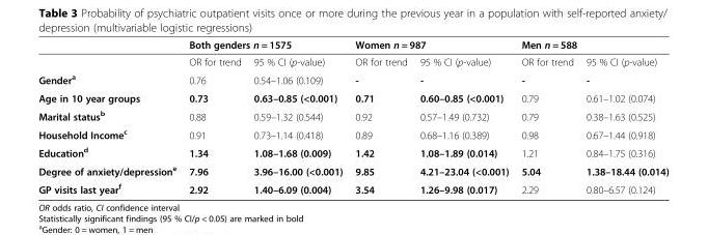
<table><thead><tr><td rowspan="2"></td><td colspan="2">Both genders n = 1575</td><td colspan="2">Women n = 987</td><td colspan="2">Men n = 588</td></tr><tr><td>OR for trend</td><td>95 % CI (p-value)</td><td>OR for trend</td><td>95 % CI (p-value)</td><td>OR for trend</td><td>95 % CI (p-value)</td></tr></thead><tbody><tr><td>Gender<sup>a</sup></td><td>0.76</td><td>0.54–1.06 (0.109)</td><td>-</td><td>-</td><td>-</td><td>-</td></tr><tr><td>Age in 10 year groups</td><td>0.73</td><td>0.63–0.85 (&lt;0.001)</td><td>0.71</td><td>0.60–0.85 (&lt;0.001)</td><td>0.79</td><td>0.61–1.02 (0.074)</td></tr><tr><td>Marital status<sup>b</sup></td><td>0.88</td><td>0.59–1.32 (0.544)</td><td>0.92</td><td>0.57–1.49 (0.732)</td><td>0.79</td><td>0.38–1.63 (0.525)</td></tr><tr><td>Household Income<sup>c</sup></td><td>0.91</td><td>0.73–1.14 (0.418)</td><td>0.89</td><td>0.68–1.16 (0.389)</td><td>0.98</td><td>0.67–1.44 (0.918)</td></tr><tr><td>Education<sup>d</sup></td><td>1.34</td><td>1.08–1.68 (0.009)</td><td>1.42</td><td>1.08–1.89 (0.014)</td><td>1.21</td><td>0.84–1.75 (0.316)</td></tr><tr><td>Degree of anxiety/depression<sup>e</sup></td><td>7.96</td><td>3.96–16.00 (&lt;0.001)</td><td>9.85</td><td>4.21–23.04 (&lt;0.001)</td><td>5.04</td><td>1.38–18.44 (0.014)</td></tr><tr><td>GP visits last year<sup>f</sup></td><td>2.92</td><td>1.40–6.09 (0.004)</td><td>3.54</td><td>1.26–9.98 (0.017)</td><td>2.29</td><td>0.80–6.57 (0.124)</td></tr></tbody></table>